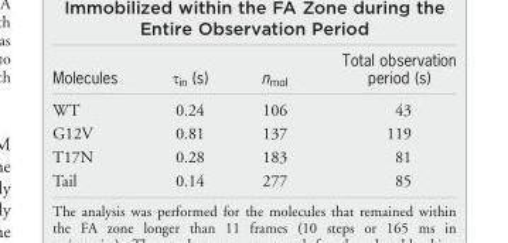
<table><thead><tr><td>Molecules</td><td>τ<sub>in</sub> (s)</td><td>n<sub>mol</sub></td><td>Total observation period (s)</td></tr></thead><tbody><tr><td>WT</td><td>0.24</td><td>106</td><td>43</td></tr><tr><td>G12V</td><td>0.81</td><td>137</td><td>119</td></tr><tr><td>T17N</td><td>0.28</td><td>183</td><td>81</td></tr><tr><td>Tail</td><td>0.14</td><td>277</td><td>85</td></tr></tbody></table>